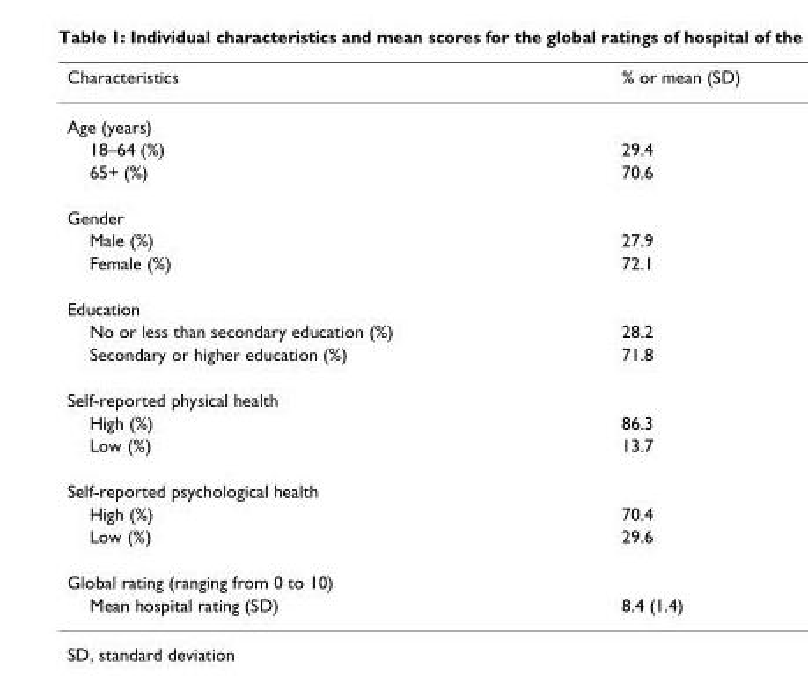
<table><thead><tr><td>Characteristics</td><td>% or mean (SD)</td></tr></thead><tbody><tr><td colspan="2">Age (years)</td></tr><tr><td>18–64 (%)</td><td>29.4</td></tr><tr><td>65+ (%)</td><td>70.6</td></tr><tr><td colspan="2">Gender</td></tr><tr><td>Male (%)</td><td>27.9</td></tr><tr><td>Female (%)</td><td>72.1</td></tr><tr><td colspan="2">Education</td></tr><tr><td>No or less than secondary education (%)</td><td>28.2</td></tr><tr><td>Secondary or higher education (%)</td><td>71.8</td></tr><tr><td colspan="2">Self-reported physical health</td></tr><tr><td>High (%)</td><td>86.3</td></tr><tr><td>Low (%)</td><td>13.7</td></tr><tr><td colspan="2">Self-reported psychological health</td></tr><tr><td>High (%)</td><td>70.4</td></tr><tr><td>Low (%)</td><td>29.6</td></tr><tr><td colspan="2">Global rating (ranging from 0 to 10)</td></tr><tr><td>Mean hospital rating (SD)</td><td>8.4 (1.4)</td></tr></tbody></table>